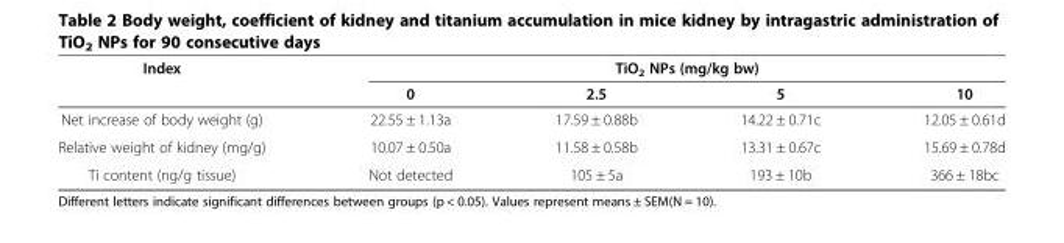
<table><thead><tr><td rowspan="2">Index</td><td colspan="4">TiO2 NPs (mg/kg bw)</td></tr><tr><td>0</td><td>2.5</td><td>5</td><td>10</td></tr></thead><tbody><tr><td>Net increase of body weight (g)</td><td>22.55 ± 1.13a</td><td>17.59 ± 0.88b</td><td>14.22 ± 0.71c</td><td>12.05 ± 0.61d</td></tr><tr><td>Relative weight of kidney (mg/g)</td><td>10.07 ± 0.50a</td><td>11.58 ± 0.58b</td><td>13.31 ± 0.67c</td><td>15.69 ± 0.78d</td></tr><tr><td>Ti content (ng/g tissue)</td><td>Not detected</td><td>105 ± 5a</td><td>193 ± 10b</td><td>366 ± 18bc</td></tr></tbody></table>